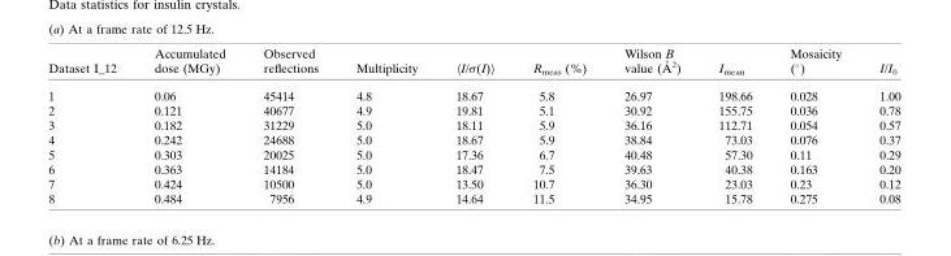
<table><thead><tr><td>Dataset I_12</td><td>Accumulated dose (MGy)</td><td>Observed reflections</td><td>Multiplicity</td><td>〈I/σ(I)〉</td><td>R<sub>meas</sub> (%)</td><td>Wilson B value (A˚ 2)</td><td>I<sub>mean</sub></td><td>Mosaicity (°)</td><td>I/I<sub>0</sub></td></tr></thead><tbody><tr><td>1</td><td>0.06</td><td>45414</td><td>4.8</td><td>18.67</td><td>5.8</td><td>26.97</td><td>198.66</td><td>0.028</td><td>1.00</td></tr><tr><td>2</td><td>0.121</td><td>40677</td><td>4.9</td><td>19.81</td><td>5.1</td><td>30.92</td><td>155.75</td><td>0.036</td><td>0.78</td></tr><tr><td>3</td><td>0.182</td><td>31229</td><td>5.0</td><td>18.11</td><td>5.9</td><td>36.16</td><td>112.71</td><td>0.054</td><td>0.57</td></tr><tr><td>4</td><td>0.242</td><td>24688</td><td>5.0</td><td>18.67</td><td>5.9</td><td>38.84</td><td>73.03</td><td>0.076</td><td>0.37</td></tr><tr><td>5</td><td>0.303</td><td>20025</td><td>5.0</td><td>17.36</td><td>6.7</td><td>40.48</td><td>57.30</td><td>0.11</td><td>0.29</td></tr><tr><td>6</td><td>0.363</td><td>14184</td><td>5.0</td><td>18.47</td><td>7.5</td><td>39.63</td><td>40.38</td><td>0.163</td><td>0.20</td></tr><tr><td>7</td><td>0.424</td><td>10500</td><td>5.0</td><td>13.50</td><td>10.7</td><td>36.30</td><td>23.03</td><td>0.23</td><td>0.12</td></tr><tr><td>8</td><td>0.484</td><td>7956</td><td>4.9</td><td>14.64</td><td>11.5</td><td>34.95</td><td>15.78</td><td>0.275</td><td>0.08</td></tr></tbody></table>